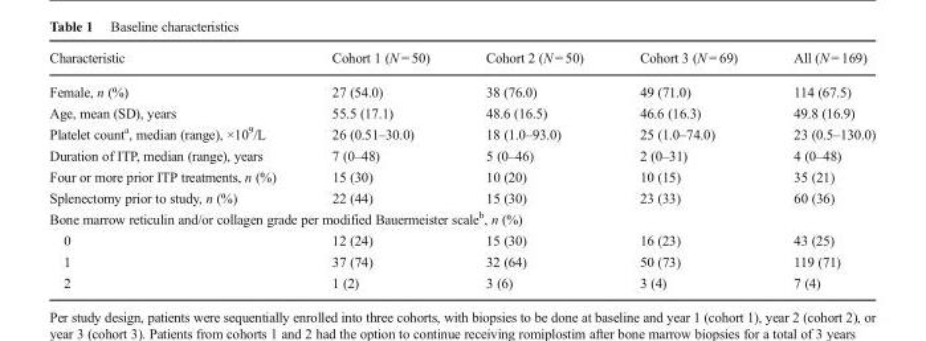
<table><thead><tr><td>Characteristic</td><td>Cohort 1 (N = 50)</td><td>Cohort 2 (N = 50)</td><td>Cohort 3 (N = 69)</td><td>All (N = 169)</td></tr></thead><tbody><tr><td>Female, n (%)</td><td>27 (54.0)</td><td>38 (76.0)</td><td>49 (71.0)</td><td>114 (67.5)</td></tr><tr><td>Age, mean (SD), years</td><td>55.5 (17.1)</td><td>48.6 (16.5)</td><td>46.6 (16.3)</td><td>49.8 (16.9)</td></tr><tr><td>Platelet count<sup>a</sup>, median (range), ×10<sup>9</sup>/L</td><td>26 (0.51–30.0)</td><td>18 (1.0–93.0)</td><td>25 (1.0–74.0)</td><td>23 (0.5–130.0)</td></tr><tr><td>Duration of ITP, median (range), years</td><td>7 (0–48)</td><td>5 (0–46)</td><td>2 (0–31)</td><td>4 (0–48)</td></tr><tr><td>Four or more prior ITP treatments, n (%)</td><td>15 (30)</td><td>10 (20)</td><td>10 (15)</td><td>35 (21)</td></tr><tr><td>Splenectomy prior to study, n (%)</td><td>22 (44)</td><td>15 (30)</td><td>23 (33)</td><td>60 (36)</td></tr><tr><td colspan="5">Bone marrow reticulin and/or collagen grade per modified Bauermeister scale<sup>b</sup>, n (%)</td></tr><tr><td>0</td><td>12 (24)</td><td>15 (30)</td><td>16 (23)</td><td>43 (25)</td></tr><tr><td>1</td><td>37 (74)</td><td>32 (64)</td><td>50 (73)</td><td>119 (71)</td></tr><tr><td>2</td><td>1 (2)</td><td>3 (6)</td><td>3 (4)</td><td>7 (4)</td></tr></tbody></table>